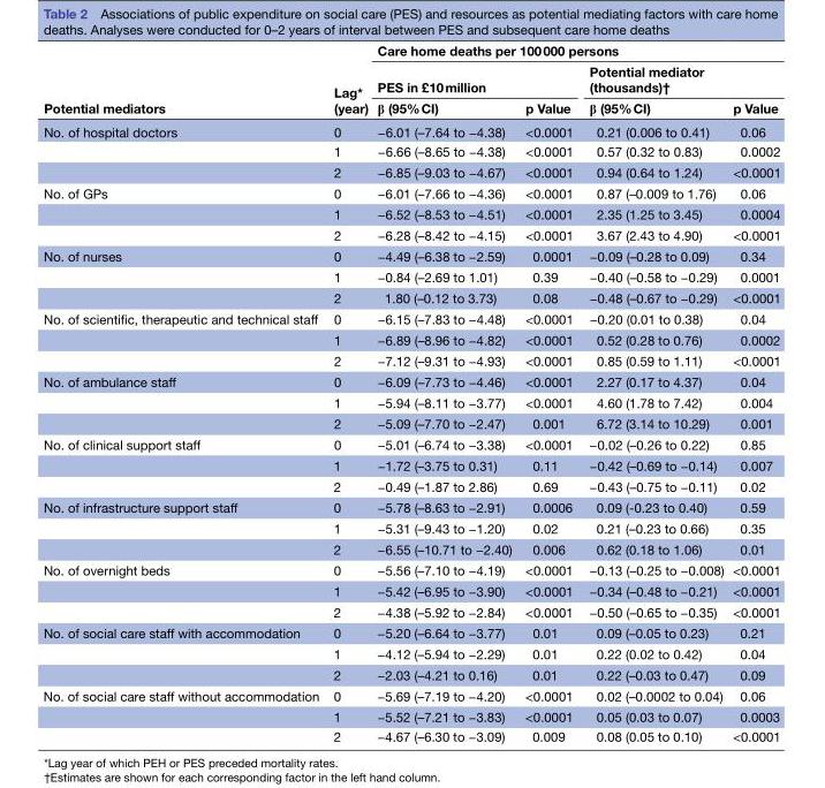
<table><thead><tr><td rowspan="3">Potential mediators</td><td rowspan="3">Lag* (year)</td><td colspan="4">Care home deaths per 100 000 persons</td></tr><tr><td colspan="2">PES in £10 million</td><td colspan="2">Potential mediator (thousands)†</td></tr><tr><td>β (95% CI)</td><td>p Value</td><td>β (95% CI)</td><td>p Value</td></tr></thead><tbody><tr><td rowspan="3">No. of hospital doctors</td><td>0</td><td>−6.01 (–7.64 to −4.38)</td><td>&lt;0.0001</td><td>0.21 (0.006 to 0.41)</td><td>0.06</td></tr><tr><td>1</td><td>−6.66 (–8.65 to −4.38)</td><td>&lt;0.0001</td><td>0.57 (0.32 to 0.83)</td><td>0.0002</td></tr><tr><td>2</td><td>−6.85 (–9.03 to −4.67)</td><td>&lt;0.0001</td><td>0.94 (0.64 to 1.24)</td><td>&lt;0.0001</td></tr><tr><td rowspan="3">No. of GPs</td><td>0</td><td>−6.01 (–7.66 to −4.36)</td><td>&lt;0.0001</td><td>0.87 (–0.009 to 1.76)</td><td>0.06</td></tr><tr><td>1</td><td>−6.52 (–8.53 to −4.51)</td><td>&lt;0.0001</td><td>2.35 (1.25 to 3.45)</td><td>0.0004</td></tr><tr><td>2</td><td>−6.28 (–8.42 to −4.15)</td><td>&lt;0.0001</td><td>3.67 (2.43 to 4.90)</td><td>&lt;0.0001</td></tr><tr><td rowspan="3">No. of nurses</td><td>0</td><td>−4.49 (–6.38 to −2.59)</td><td>0.0001</td><td>−0.09 (–0.28 to 0.09)</td><td>0.34</td></tr><tr><td>1</td><td>−0.84 (–2.69 to 1.01)</td><td>0.39</td><td>−0.40 (–0.58 to −0.29)</td><td>0.0001</td></tr><tr><td>2</td><td>1.80 (–0.12 to 3.73)</td><td>0.08</td><td>−0.48 (–0.67 to −0.29)</td><td>&lt;0.0001</td></tr><tr><td rowspan="3">No. of scientific, therapeutic and technical staff</td><td>0</td><td>−6.15 (–7.83 to −4.48)</td><td>&lt;0.0001</td><td>−0.20 (0.01 to 0.38)</td><td>0.04</td></tr><tr><td>1</td><td>−6.89 (–8.96 to −4.82)</td><td>&lt;0.0001</td><td>0.52 (0.28 to 0.76)</td><td>0.0002</td></tr><tr><td>2</td><td>−7.12 (–9.31 to −4.93)</td><td>&lt;0.0001</td><td>0.85 (0.59 to 1.11)</td><td>&lt;0.0001</td></tr><tr><td rowspan="3">No. of ambulance staff</td><td>0</td><td>−6.09 (–7.73 to −4.46)</td><td>&lt;0.0001</td><td>2.27 (0.17 to 4.37)</td><td>0.04</td></tr><tr><td>1</td><td>−5.94 (–8.11 to −3.77)</td><td>&lt;0.0001</td><td>4.60 (1.78 to 7.42)</td><td>0.004</td></tr><tr><td>2</td><td>−5.09 (–7.70 to −2.47)</td><td>0.001</td><td>6.72 (3.14 to 10.29)</td><td>0.001</td></tr><tr><td rowspan="3">No. of clinical support staff</td><td>0</td><td>−5.01 (–6.74 to −3.38)</td><td>&lt;0.0001</td><td>−0.02 (–0.26 to 0.22)</td><td>0.85</td></tr><tr><td>1</td><td>−1.72 (–3.75 to 0.31)</td><td>0.11</td><td>−0.42 (–0.69 to −0.14)</td><td>0.007</td></tr><tr><td>2</td><td>−0.49 (–1.87 to 2.86)</td><td>0.69</td><td>−0.43 (–0.75 to −0.11)</td><td>0.02</td></tr><tr><td rowspan="3">No. of infrastructure support staff</td><td>0</td><td>−5.78 (–8.63 to −2.91)</td><td>0.0006</td><td>0.09 (-0.23 to 0.40)</td><td>0.59</td></tr><tr><td>1</td><td>−5.31 (–9.43 to −1.20)</td><td>0.02</td><td>0.21 (–0.23 to 0.66)</td><td>0.35</td></tr><tr><td>2</td><td>−6.55 (–10.71 to −2.40)</td><td>0.006</td><td>0.62 (0.18 to 1.06)</td><td>0.01</td></tr><tr><td rowspan="3">No. of overnight beds</td><td>0</td><td>−5.56 (–7.10 to −4.19)</td><td>&lt;0.0001</td><td>−0.13 (–0.25 to −0.008)</td><td>&lt;0.0001</td></tr><tr><td>1</td><td>−5.42 (–6.95 to −3.90)</td><td>&lt;0.0001</td><td>−0.34 (–0.48 to −0.21)</td><td>&lt;0.0001</td></tr><tr><td>2</td><td>−4.38 (–5.92 to −2.84)</td><td>&lt;0.0001</td><td>−0.50 (–0.65 to −0.35)</td><td>&lt;0.0001</td></tr><tr><td rowspan="3">No. of social care staff with accommodation</td><td>0</td><td>−5.20 (–6.64 to −3.77)</td><td>0.01</td><td>0.09 (–0.05 to 0.23)</td><td>0.21</td></tr><tr><td>1</td><td>−4.12 (–5.94 to −2.29)</td><td>0.01</td><td>0.22 (0.02 to 0.42)</td><td>0.04</td></tr><tr><td>2</td><td>−2.03 (–4.21 to 0.16)</td><td>0.01</td><td>0.22 (–0.03 to 0.47)</td><td>0.09</td></tr><tr><td rowspan="3">No. of social care staff without accommodation</td><td>0</td><td>−5.69 (–7.19 to −4.20)</td><td>&lt;0.0001</td><td>0.02 (–0.0002 to 0.04)</td><td>0.06</td></tr><tr><td>1</td><td>−5.52 (–7.21 to −3.83)</td><td>&lt;0.0001</td><td>0.05 (0.03 to 0.07)</td><td>0.0003</td></tr><tr><td>2</td><td>−4.67 (–6.30 to −3.09)</td><td>0.009</td><td>0.08 (0.05 to 0.10)</td><td>&lt;0.0001</td></tr></tbody></table>